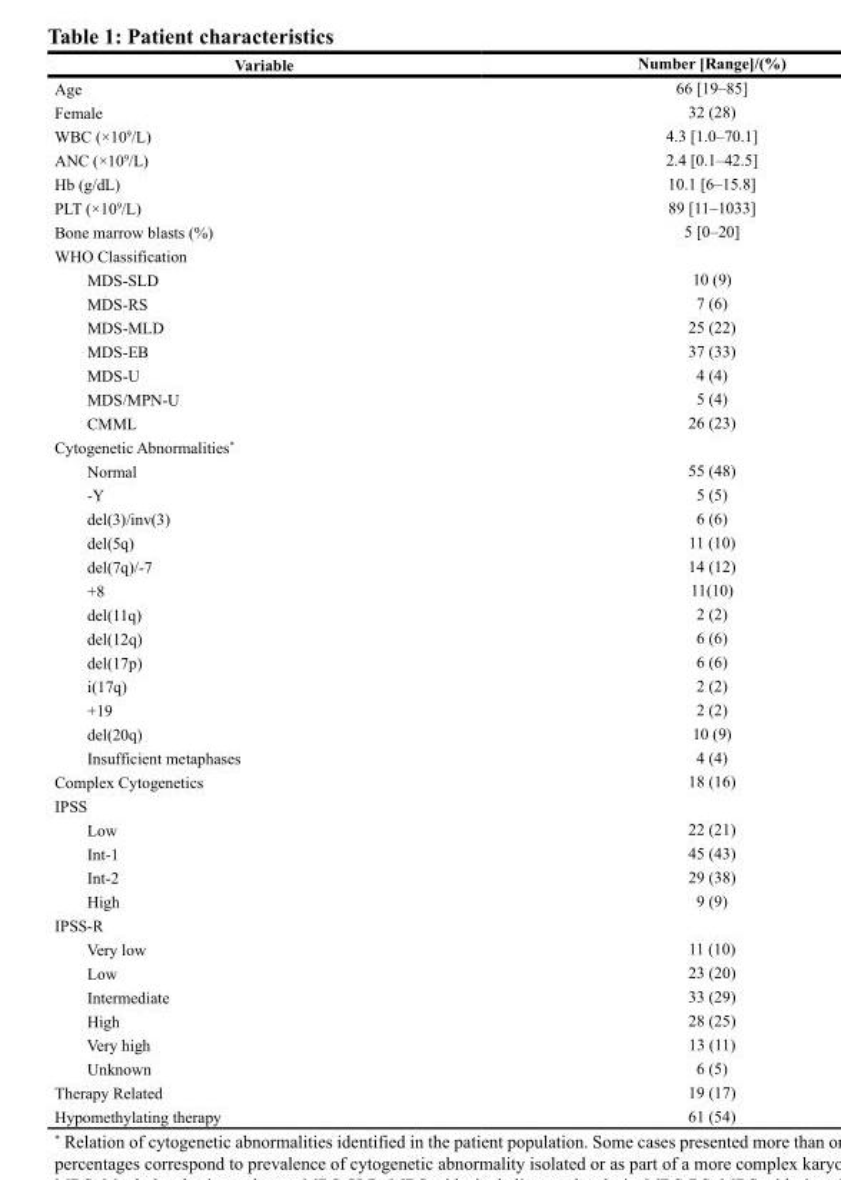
<table><thead><tr><td>Variable</td><td>Number [Range]/(%)</td></tr></thead><tbody><tr><td>Age</td><td>66 [19–85]</td></tr><tr><td>Female</td><td>32 (28)</td></tr><tr><td>WBC (×10<sup>9</sup>/L)</td><td>4.3 [1.0–70.1]</td></tr><tr><td>ANC (×10<sup>9</sup>/L)</td><td>2.4 [0.1–42.5]</td></tr><tr><td>Hb (g/dL)</td><td>10.1 [6–15.8]</td></tr><tr><td>PLT (×10<sup>9</sup>/L)</td><td>89 [11–1033]</td></tr><tr><td>Bone marrow blasts (%)</td><td>5 [0–20]</td></tr><tr><td colspan="2">WHO Classification</td></tr><tr><td>MDS-SLD</td><td>10 (9)</td></tr><tr><td>MDS-RS</td><td>7 (6)</td></tr><tr><td>MDS-MLD</td><td>25 (22)</td></tr><tr><td>MDS-EB</td><td>37 (33)</td></tr><tr><td>MDS-U</td><td>4 (4)</td></tr><tr><td>MDS/MPN-U</td><td>5 (4)</td></tr><tr><td>CMML</td><td>26 (23)</td></tr><tr><td colspan="2">Cytogenetic Abnormalities*</td></tr><tr><td>Normal</td><td>55 (48)</td></tr><tr><td>-Y</td><td>5 (5)</td></tr><tr><td>del(3)/inv(3)</td><td>6 (6)</td></tr><tr><td>del(5q)</td><td>11 (10)</td></tr><tr><td>del(7q)/-7</td><td>14 (12)</td></tr><tr><td>+8</td><td>11(10)</td></tr><tr><td>del(11q)</td><td>2 (2)</td></tr><tr><td>del(12q)</td><td>6 (6)</td></tr><tr><td>del(17p)</td><td>6 (6)</td></tr><tr><td>i(17q)</td><td>2 (2)</td></tr><tr><td>+19</td><td>2 (2)</td></tr><tr><td>del(20q)</td><td>10 (9)</td></tr><tr><td>Insufficient metaphases</td><td>4 (4)</td></tr><tr><td>Complex Cytogenetics</td><td>18 (16)</td></tr><tr><td colspan="2">IPSS</td></tr><tr><td>Low</td><td>22 (21)</td></tr><tr><td>Int-1</td><td>45 (43)</td></tr><tr><td>Int-2</td><td>29 (38)</td></tr><tr><td>High</td><td>9 (9)</td></tr><tr><td colspan="2">IPSS-R</td></tr><tr><td>Very low</td><td>11 (10)</td></tr><tr><td>Low</td><td>23 (20)</td></tr><tr><td>Intermediate</td><td>33 (29)</td></tr><tr><td>High</td><td>28 (25)</td></tr><tr><td>Very high</td><td>13 (11)</td></tr><tr><td>Unknown</td><td>6 (5)</td></tr><tr><td>Therapy Related</td><td>19 (17)</td></tr><tr><td>Hypomethylating therapy</td><td>61 (54)</td></tr></tbody></table>